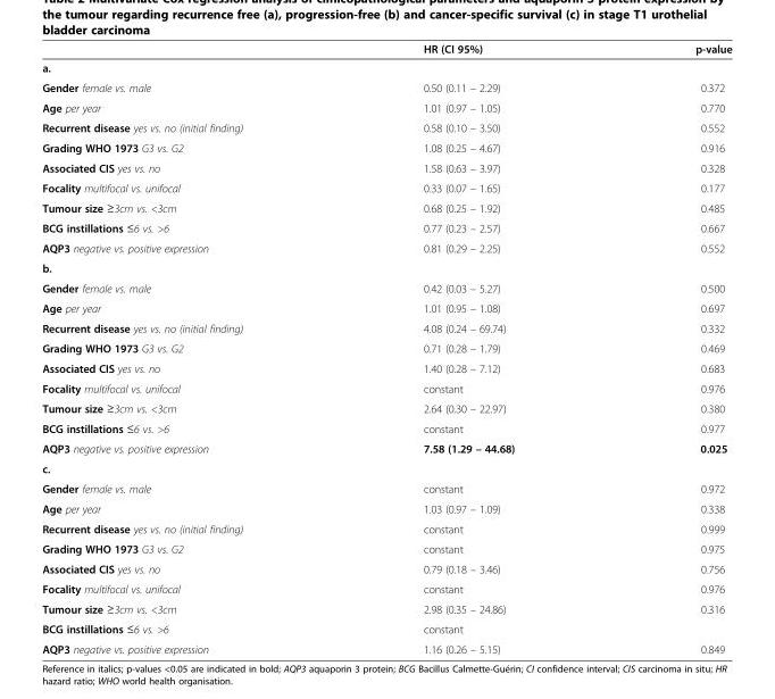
<table><thead><tr><td></td><td>HR (CI 95%)</td><td>p-value</td></tr></thead><tbody><tr><td colspan="3">a.</td></tr><tr><td>Gender female vs. male</td><td>0.50 (0.11 – 2.29)</td><td>0.372</td></tr><tr><td>Age per year</td><td>1.01 (0.97 – 1.05)</td><td>0.770</td></tr><tr><td>Recurrent disease yes vs. no (initial finding)</td><td>0.58 (0.10 – 3.50)</td><td>0.552</td></tr><tr><td>Grading WHO 1973 G3 vs. G2</td><td>1.08 (0.25 – 4.67)</td><td>0.916</td></tr><tr><td>Associated CIS yes vs. no</td><td>1.58 (0.63 – 3.97)</td><td>0.328</td></tr><tr><td>Focality multifocal vs. unifocal</td><td>0.33 (0.07 – 1.65)</td><td>0.177</td></tr><tr><td>Tumour size ≥3cm vs. &lt;3cm</td><td>0.68 (0.25 – 1.92)</td><td>0.485</td></tr><tr><td>BCG instillations ≤6 vs. &gt;6</td><td>0.77 (0.23 – 2.57)</td><td>0.667</td></tr><tr><td>AQP3 negative vs. positive expression</td><td>0.81 (0.29 – 2.25)</td><td>0.552</td></tr><tr><td colspan="3">b.</td></tr><tr><td>Gender female vs. male</td><td>0.42 (0.03 – 5.27)</td><td>0.500</td></tr><tr><td>Age per year</td><td>1.01 (0.95 – 1.08)</td><td>0.697</td></tr><tr><td>Recurrent disease yes vs. no (initial finding)</td><td>4.08 (0.24 – 69.74)</td><td>0.332</td></tr><tr><td>Grading WHO 1973 G3 vs. G2</td><td>0.71 (0.28 – 1.79)</td><td>0.469</td></tr><tr><td>Associated CIS yes vs. no</td><td>1.40 (0.28 – 7.12)</td><td>0.683</td></tr><tr><td>Focality multifocal vs. unifocal</td><td>constant</td><td>0.976</td></tr><tr><td>Tumour size ≥3cm vs. &lt;3cm</td><td>2.64 (0.30 – 22.97)</td><td>0.380</td></tr><tr><td>BCG instillations ≤6 vs. &gt;6</td><td>constant</td><td>0.977</td></tr><tr><td>AQP3 negative vs. positive expression</td><td>7.58 (1.29 – 44.68)</td><td>0.025</td></tr><tr><td colspan="3">c.</td></tr><tr><td>Gender female vs. male</td><td>constant</td><td>0.972</td></tr><tr><td>Age per year</td><td>1.03 (0.97 – 1.09)</td><td>0.338</td></tr><tr><td>Recurrent disease yes vs. no (initial finding)</td><td>constant</td><td>0.999</td></tr><tr><td>Grading WHO 1973 G3 vs. G2</td><td>constant</td><td>0.975</td></tr><tr><td>Associated CIS yes vs. no</td><td>0.79 (0.18 – 3.46)</td><td>0.756</td></tr><tr><td>Focality multifocal vs. unifocal</td><td>constant</td><td>0.976</td></tr><tr><td>Tumour size ≥3cm vs. &lt;3cm</td><td>2.98 (0.35 – 24.86)</td><td>0.316</td></tr><tr><td>BCG instillations ≤6 vs. &gt;6</td><td>constant</td><td></td></tr><tr><td>AQP3 negative vs. positive expression</td><td>1.16 (0.26 – 5.15)</td><td>0.849</td></tr></tbody></table>